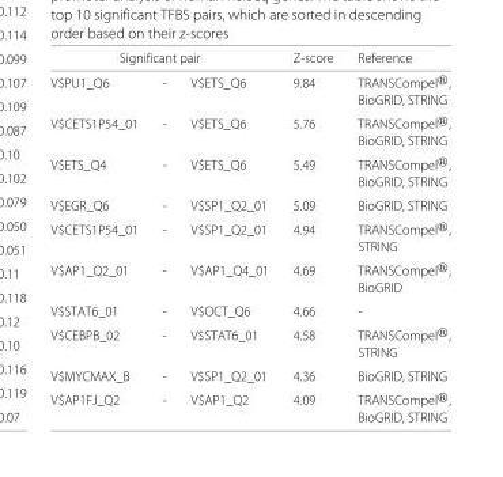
<table><thead><tr><td colspan="3">Significant pair</td><td rowspan="2">Z-score 9.84</td><td rowspan="2">Reference TRANSCompel®,</td></tr><tr><td>V$PU1_Q6</td><td>-</td><td>V$ETS_Q6</td></tr></thead><tbody><tr><td></td><td></td><td></td><td></td><td>BioGRID, STRING</td></tr><tr><td rowspan="2">V$CETS1P54_01</td><td>-</td><td>V$ETS_Q6</td><td>5.76</td><td>TRANSCompel®,</td></tr><tr><td></td><td></td><td></td><td>BioGRID, STRING</td></tr><tr><td rowspan="2">V$ETS_Q4</td><td>-</td><td>V$ETS_Q6</td><td>5.49</td><td>TRANSCompel®,</td></tr><tr><td></td><td></td><td></td><td>BioGRID, STRING</td></tr><tr><td>V$EGR_Q6</td><td>-</td><td>V$SP1_Q2_01</td><td>5.09</td><td>BioGRID, STRING</td></tr><tr><td rowspan="2">V$CETS1P54_01</td><td>-</td><td>V$SP1_Q2_01</td><td>4.94</td><td>TRANSCompel®,</td></tr><tr><td></td><td></td><td></td><td>STRING</td></tr><tr><td rowspan="2">V$AP1_Q2_01</td><td>-</td><td>V$AP1_Q4_01</td><td>4.69</td><td>TRANSCompel®,</td></tr><tr><td></td><td></td><td></td><td>BioGRID</td></tr><tr><td>V$STAT6_01</td><td>-</td><td>V$OCT_Q6</td><td>4.66</td><td>-</td></tr><tr><td rowspan="2">V$CEBPB_02</td><td>-</td><td>V$STAT6_01</td><td>4.58</td><td>TRANSCompel®,</td></tr><tr><td></td><td></td><td></td><td>STRING</td></tr><tr><td>V$MYCMAX_B</td><td>-</td><td>V$SP1_Q2_01</td><td>4.36</td><td>BioGRID, STRING</td></tr><tr><td rowspan="2">V$AP1FJ_Q2</td><td>-</td><td>V$AP1_Q2</td><td>4.09</td><td>TRANSCompel®,</td></tr><tr><td></td><td></td><td></td><td>BioGRID, STRING</td></tr></tbody></table>